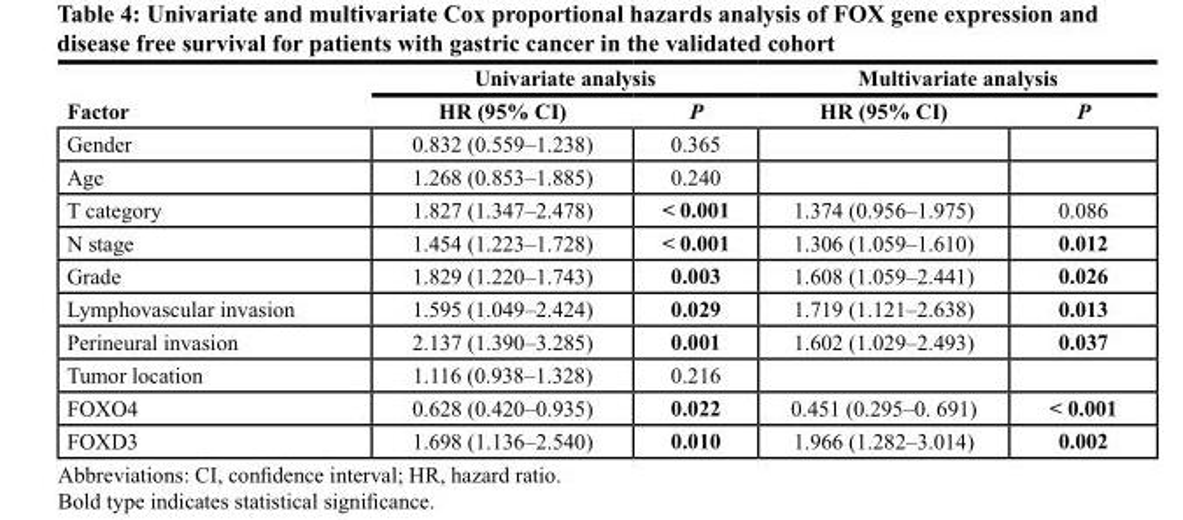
<table><thead><tr><td rowspan="2">Factor</td><td colspan="2">Univariate analysis</td><td colspan="2">Multivariate analysis</td></tr><tr><td>HR (95% CI)</td><td>P</td><td>HR (95% CI)</td><td>P</td></tr></thead><tbody><tr><td>Gender</td><td>0.832 (0.559–1.238)</td><td>0.365</td><td></td><td></td></tr><tr><td>Age</td><td>1.268 (0.853–1.885)</td><td>0.240</td><td></td><td></td></tr><tr><td>T category</td><td>1.827 (1.347–2.478)</td><td>&lt; 0.001</td><td>1.374 (0.956–1.975)</td><td>0.086</td></tr><tr><td>N stage</td><td>1.454 (1.223–1.728)</td><td>&lt; 0.001</td><td>1.306 (1.059–1.610)</td><td>0.012</td></tr><tr><td>Grade</td><td>1.829 (1.220–1.743)</td><td>0.003</td><td>1.608 (1.059–2.441)</td><td>0.026</td></tr><tr><td>Lymphovascular invasion</td><td>1.595 (1.049–2.424)</td><td>0.029</td><td>1.719 (1.121–2.638)</td><td>0.013</td></tr><tr><td>Perineural invasion</td><td>2.137 (1.390–3.285)</td><td>0.001</td><td>1.602 (1.029–2.493)</td><td>0.037</td></tr><tr><td>Tumor location</td><td>1.116 (0.938–1.328)</td><td>0.216</td><td></td><td></td></tr><tr><td>FOXO4</td><td>0.628 (0.420–0.935)</td><td>0.022</td><td>0.451 (0.295–0. 691)</td><td>&lt; 0.001</td></tr><tr><td>FOXD3</td><td>1.698 (1.136–2.540)</td><td>0.010</td><td>1.966 (1.282–3.014)</td><td>0.002</td></tr></tbody></table>